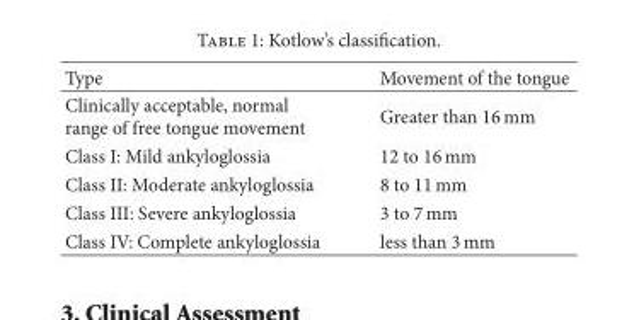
<table><thead><tr><td>Type</td><td>Movement of the tongue</td></tr></thead><tbody><tr><td>Clinically acceptable, normal range of free tongue movement</td><td>Greater than 16 mm</td></tr><tr><td>Class I: Mild ankyloglossia</td><td>12 to 16 mm</td></tr><tr><td>Class II: Moderate ankyloglossia</td><td>8 to 11 mm</td></tr><tr><td>Class III: Severe ankyloglossia</td><td>3 to 7 mm</td></tr><tr><td>Class IV: Complete ankyloglossia</td><td>less than 3 mm</td></tr></tbody></table>